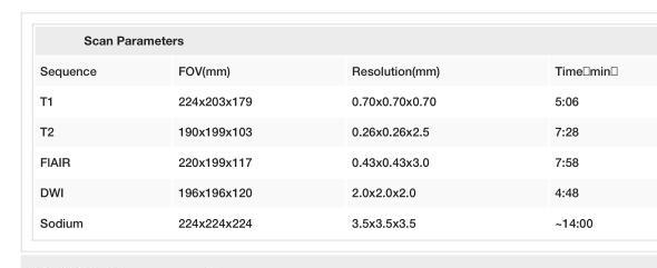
<table><tbody><tr><td colspan="4">Scan Parameters</td></tr><tr><td>Sequence</td><td>FOV(mm)</td><td>Resolution(mm)</td><td>Time（min）</td></tr><tr><td>T1</td><td>224x203x179</td><td>0.70x0.70x0.70</td><td>5:06</td></tr><tr><td>T2</td><td>190x199x103</td><td>0.26x0.26x2.5</td><td>7:28</td></tr><tr><td>FlAIR</td><td>220x199x117</td><td>0.43x0.43x3.0</td><td>7:58</td></tr><tr><td>DWI</td><td>196x196x120</td><td>2.0x2.0x2.0</td><td>4:48</td></tr><tr><td>Sodium</td><td>224x224x224</td><td>3.5x3.5x3.5</td><td>~14:00</td></tr></tbody></table>